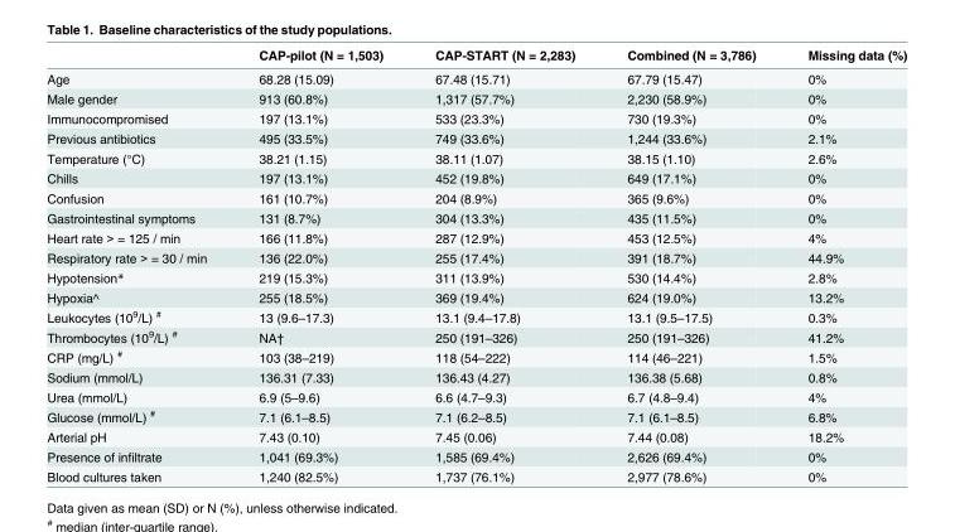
<table><thead><tr><td></td><td>CAP-pilot (N = 1,503)</td><td>CAP-START (N = 2,283)</td><td>Combined (N = 3,786)</td><td>Missing data (%)</td></tr></thead><tbody><tr><td>Age</td><td>68.28 (15.09)</td><td>67.48 (15.71)</td><td>67.79 (15.47)</td><td>0%</td></tr><tr><td>Male gender</td><td>913 (60.8%)</td><td>1,317 (57.7%)</td><td>2,230 (58.9%)</td><td>0%</td></tr><tr><td>Immunocompromised</td><td>197 (13.1%)</td><td>533 (23.3%)</td><td>730 (19.3%)</td><td>0%</td></tr><tr><td>Previous antibiotics</td><td>495 (33.5%)</td><td>749 (33.6%)</td><td>1,244 (33.6%)</td><td>2.1%</td></tr><tr><td>Temperature (°C)</td><td>38.21 (1.15)</td><td>38.11 (1.07)</td><td>38.15 (1.10)</td><td>2.6%</td></tr><tr><td>Chills</td><td>197 (13.1%)</td><td>452 (19.8%)</td><td>649 (17.1%)</td><td>0%</td></tr><tr><td>Confusion</td><td>161 (10.7%)</td><td>204 (8.9%)</td><td>365 (9.6%)</td><td>0%</td></tr><tr><td>Gastrointestinal symptoms</td><td>131 (8.7%)</td><td>304 (13.3%)</td><td>435 (11.5%)</td><td>0%</td></tr><tr><td>Heart rate &gt; = 125 / min</td><td>166 (11.8%)</td><td>287 (12.9%)</td><td>453 (12.5%)</td><td>4%</td></tr><tr><td>Respiratory rate &gt; = 30 / min</td><td>136 (22.0%)</td><td>255 (17.4%)</td><td>391 (18.7%)</td><td>44.9%</td></tr><tr><td>Hypotension*</td><td>219 (15.3%)</td><td>311 (13.9%)</td><td>530 (14.4%)</td><td>2.8%</td></tr><tr><td>Hypoxia^</td><td>255 (18.5%)</td><td>369 (19.4%)</td><td>624 (19.0%)</td><td>13.2%</td></tr><tr><td>Leukocytes (10<sup>9</sup>/L) <sup>#</sup></td><td>13 (9.6–17.3)</td><td>13.1 (9.4–17.8)</td><td>13.1 (9.5–17.5)</td><td>0.3%</td></tr><tr><td>Thrombocytes (10<sup>9</sup>/L) <sup>#</sup></td><td>NA†</td><td>250 (191–326)</td><td>250 (191–326)</td><td>41.2%</td></tr><tr><td>CRP (mg/L) <sup>#</sup></td><td>103 (38–219)</td><td>118 (54–222)</td><td>114 (46–221)</td><td>1.5%</td></tr><tr><td>Sodium (mmol/L)</td><td>136.31 (7.33)</td><td>136.43 (4.27)</td><td>136.38 (5.68)</td><td>0.8%</td></tr><tr><td>Urea (mmol/L)</td><td>6.9 (5–9.6)</td><td>6.6 (4.7–9.3)</td><td>6.7 (4.8–9.4)</td><td>4%</td></tr><tr><td>Glucose (mmol/L) <sup>#</sup></td><td>7.1 (6.1–8.5)</td><td>7.1 (6.2–8.5)</td><td>7.1 (6.1–8.5)</td><td>6.8%</td></tr><tr><td>Arterial pH</td><td>7.43 (0.10)</td><td>7.45 (0.06)</td><td>7.44 (0.08)</td><td>18.2%</td></tr><tr><td>Presence of infiltrate</td><td>1,041 (69.3%)</td><td>1,585 (69.4%)</td><td>2,626 (69.4%)</td><td>0%</td></tr><tr><td>Blood cultures taken</td><td>1,240 (82.5%)</td><td>1,737 (76.1%)</td><td>2,977 (78.6%)</td><td>0%</td></tr></tbody></table>